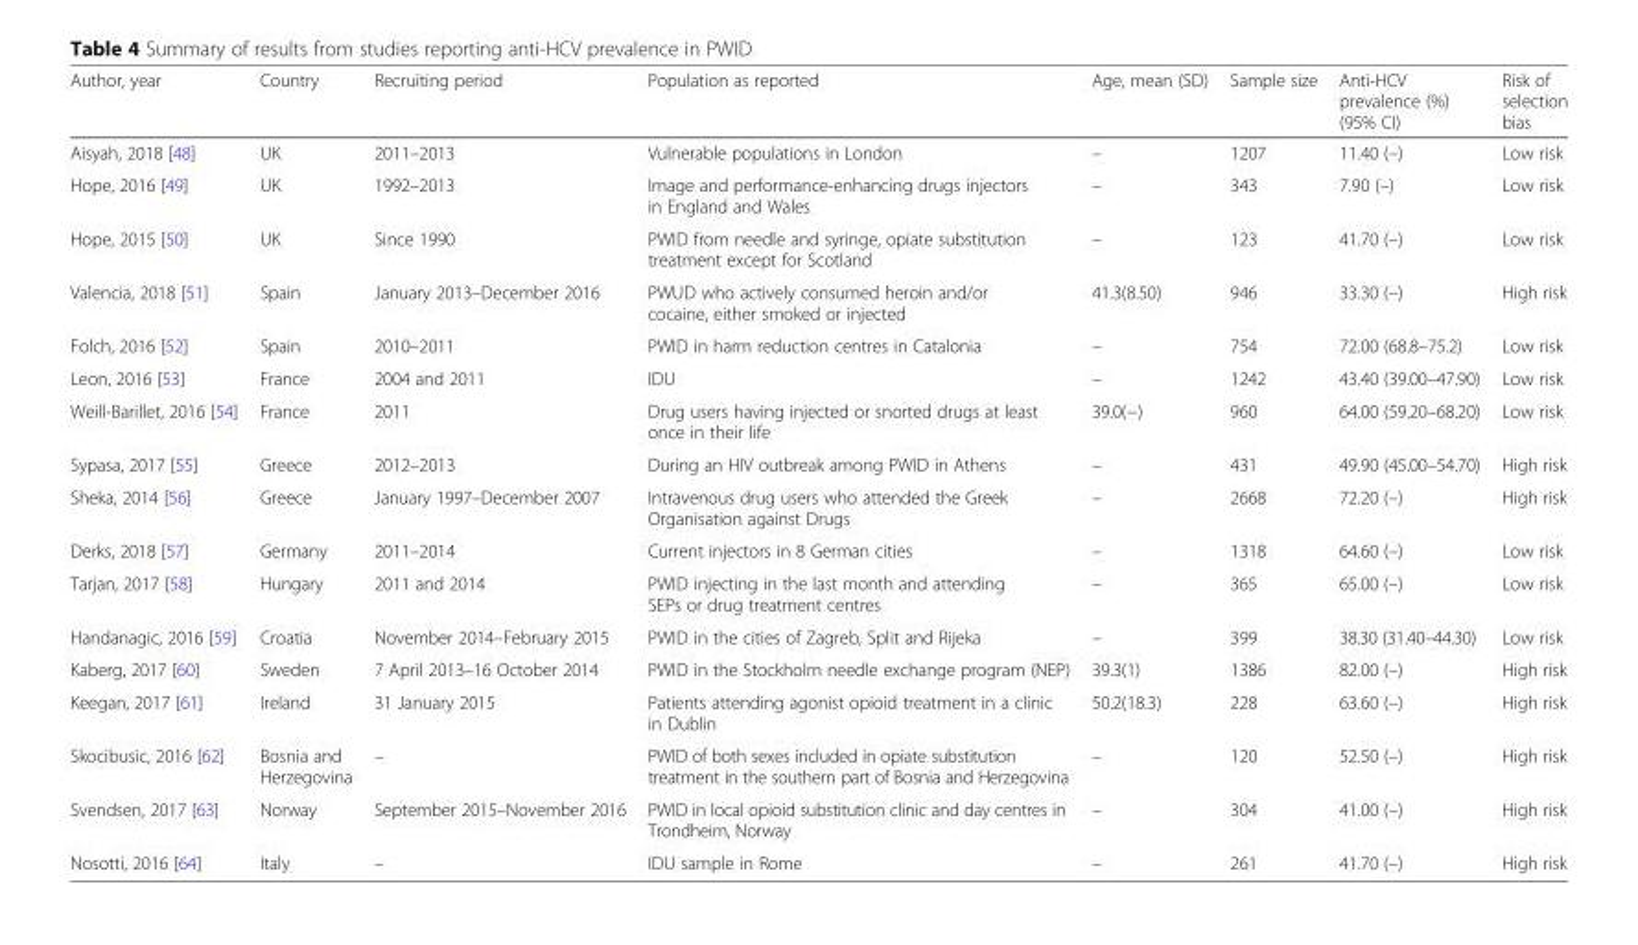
<table><thead><tr><td>Author, year</td><td>Country</td><td>Recruiting period</td><td>Population as reported</td><td>Age, mean (SD)</td><td>Sample size</td><td>Anti-HCV prevalence (%) (95% CI)</td><td>Risk of selection bias</td></tr></thead><tbody><tr><td>Aisyah, 2018 [48]</td><td>UK</td><td>2011–2013</td><td>Vulnerable populations in London</td><td>–</td><td>1207</td><td>11.40 (–)</td><td>Low risk</td></tr><tr><td>Hope, 2016 [49]</td><td>UK</td><td>1992–2013</td><td>Image and performance-enhancing drugs injectors in England and Wales</td><td>–</td><td>343</td><td>7.90 (–)</td><td>Low risk</td></tr><tr><td>Hope, 2015 [50]</td><td>UK</td><td>Since 1990</td><td>PWID from needle and syringe, opiate substitution treatment except for Scotland</td><td>–</td><td>123</td><td>41.70 (–)</td><td>Low risk</td></tr><tr><td>Valencia, 2018 [51]</td><td>Spain</td><td>January 2013–December 2016</td><td>PWUD who actively consumed heroin and/or cocaine, either smoked or injected</td><td>41.3(8.50)</td><td>946</td><td>33.30 (–)</td><td>High risk</td></tr><tr><td>Folch, 2016 [52]</td><td>Spain</td><td>2010–2011</td><td>PWID in harm reduction centres in Catalonia</td><td>–</td><td>754</td><td>72.00 (68.8–75.2)</td><td>Low risk</td></tr><tr><td>Leon, 2016 [53]</td><td>France</td><td>2004 and 2011</td><td>IDU</td><td>–</td><td>1242</td><td>43.40 (39.00–47.90)</td><td>Low risk</td></tr><tr><td>Weill-Barillet, 2016 [54]</td><td>France</td><td>2011</td><td>Drug users having injected or snorted drugs at least once in their life</td><td>39.0(−)</td><td>960</td><td>64.00 (59.20–68.20)</td><td>Low risk</td></tr><tr><td>Sypasa, 2017 [55]</td><td>Greece</td><td>2012–2013</td><td>During an HIV outbreak among PWID in Athens</td><td>–</td><td>431</td><td>49.90 (45.00–54.70)</td><td>High risk</td></tr><tr><td>Sheka, 2014 [56]</td><td>Greece</td><td>January 1997–December 2007</td><td>Intravenous drug users who attended the Greek Organisation against Drugs</td><td>–</td><td>2668</td><td>72.20 (–)</td><td>High risk</td></tr><tr><td>Derks, 2018 [57]</td><td>Germany</td><td>2011–2014</td><td>Current injectors in 8 German cities</td><td>–</td><td>1318</td><td>64.60 (–)</td><td>Low risk</td></tr><tr><td>Tarjan, 2017 [58]</td><td>Hungary</td><td>2011 and 2014</td><td>PWID injecting in the last month and attending SEPs or drug treatment centres</td><td>–</td><td>365</td><td>65.00 (–)</td><td>Low risk</td></tr><tr><td>Handanagic, 2016 [59]</td><td>Croatia</td><td>November 2014–February 2015</td><td>PWID in the cities of Zagreb, Split and Rijeka</td><td>–</td><td>399</td><td>38.30 (31.40–44.30)</td><td>Low risk</td></tr><tr><td>Kaberg, 2017 [60]</td><td>Sweden</td><td>7 April 2013–16 October 2014</td><td>PWID in the Stockholm needle exchange program (NEP)</td><td>39.3(1)</td><td>1386</td><td>82.00 (–)</td><td>High risk</td></tr><tr><td>Keegan, 2017 [61]</td><td>Ireland</td><td>31 January 2015</td><td>Patients attending agonist opioid treatment in a clinic in Dublin</td><td>50.2(18.3)</td><td>228</td><td>63.60 (–)</td><td>High risk</td></tr><tr><td>Skocibusic, 2016 [62]</td><td>Bosnia and Herzegovina</td><td>–</td><td>PWID of both sexes included in opiate substitution treatment in the southern part of Bosnia and Herzegovina</td><td>–</td><td>120</td><td>52.50 (–)</td><td>High risk</td></tr><tr><td>Svendsen, 2017 [63]</td><td>Norway</td><td>September 2015–November 2016</td><td>PWID in local opioid substitution clinic and day centres in Trondheim, Norway</td><td>–</td><td>304</td><td>41.00 (–)</td><td>High risk</td></tr><tr><td>Nosotti, 2016 [64]</td><td>Italy</td><td>–</td><td>IDU sample in Rome</td><td>–</td><td>261</td><td>41.70 (–)</td><td>High risk</td></tr></tbody></table>